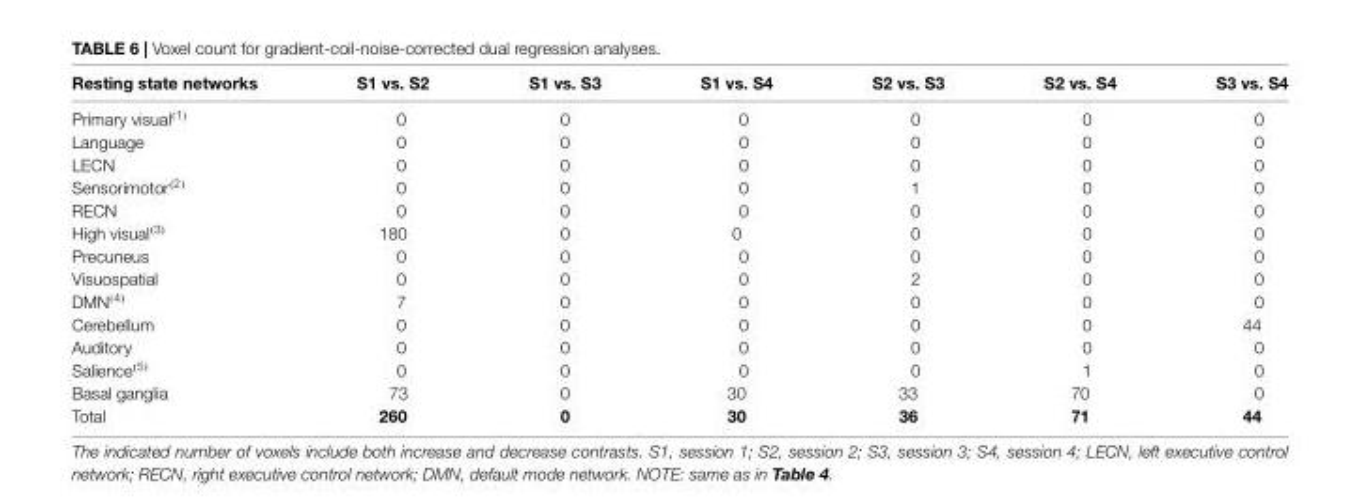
<table><thead><tr><td>Resting state networks</td><td>S1 vs. S2</td><td>S1 vs. S3</td><td>S1 vs. S4</td><td>S2 vs. S3</td><td>S2 vs. S4</td><td>S3 vs. S4</td></tr></thead><tbody><tr><td>Primary visual<sup>(1)</sup></td><td>0</td><td>0</td><td>0</td><td>0</td><td>0</td><td>0</td></tr><tr><td>Language</td><td>0</td><td>0</td><td>0</td><td>0</td><td>0</td><td>0</td></tr><tr><td>LECN</td><td>0</td><td>0</td><td>0</td><td>0</td><td>0</td><td>0</td></tr><tr><td>Sensorimotor<sup>(2)</sup></td><td>0</td><td>0</td><td>0</td><td>1</td><td>0</td><td>0</td></tr><tr><td>RECN</td><td>0</td><td>0</td><td>0</td><td>0</td><td>0</td><td>0</td></tr><tr><td>High visual<sup>(3)</sup></td><td>180</td><td>0</td><td>0</td><td>0</td><td>0</td><td>0</td></tr><tr><td>Precuneus</td><td>0</td><td>0</td><td>0</td><td>0</td><td>0</td><td>0</td></tr><tr><td>Visuospatial</td><td>0</td><td>0</td><td>0</td><td>2</td><td>0</td><td>0</td></tr><tr><td>DMN<sup>(4)</sup></td><td>7</td><td>0</td><td>0</td><td>0</td><td>0</td><td>0</td></tr><tr><td>Cerebellum</td><td>0</td><td>0</td><td>0</td><td>0</td><td>0</td><td>44</td></tr><tr><td>Auditory</td><td>0</td><td>0</td><td>0</td><td>0</td><td>0</td><td>0</td></tr><tr><td>Salience<sup>(5)</sup></td><td>0</td><td>0</td><td>0</td><td>0</td><td>1</td><td>0</td></tr><tr><td>Basal ganglia</td><td>73</td><td>0</td><td>30</td><td>33</td><td>70</td><td>0</td></tr><tr><td>Total</td><td>260</td><td>0</td><td>30</td><td>36</td><td>71</td><td>44</td></tr></tbody></table>